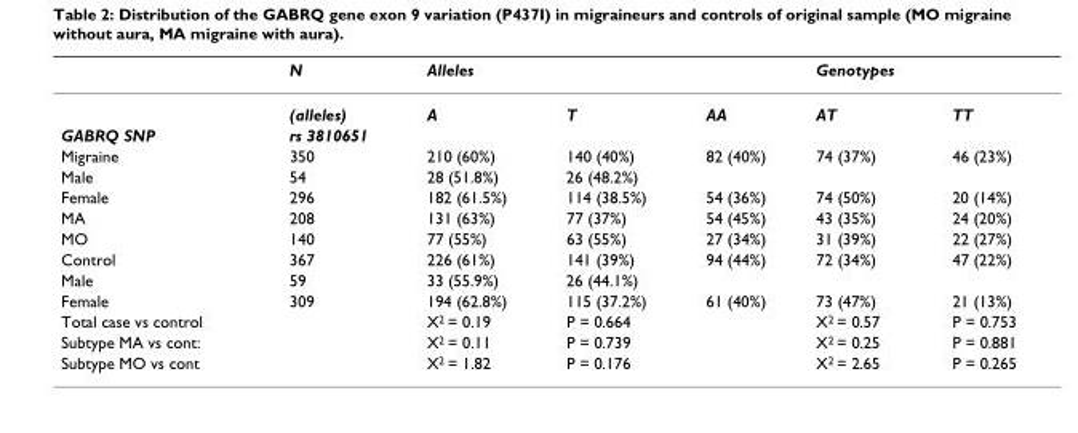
<table><thead><tr><td></td><td>N</td><td>Alleles</td><td></td><td></td><td>Genotypes</td><td></td></tr></thead><tbody><tr><td></td><td>(alleles)</td><td>A</td><td>T</td><td>AA</td><td>AT</td><td>TT</td></tr><tr><td>GABRQ SNP</td><td>rs 3810651</td><td></td><td></td><td></td><td></td><td></td></tr><tr><td>Migraine</td><td>350</td><td>210 (60%)</td><td>140 (40%)</td><td>82 (40%)</td><td>74 (37%)</td><td>46 (23%)</td></tr><tr><td>Male</td><td>54</td><td>28 (51.8%)</td><td>26 (48.2%)</td><td></td><td></td><td></td></tr><tr><td>Female</td><td>296</td><td>182 (61.5%)</td><td>114 (38.5%)</td><td>54 (36%)</td><td>74 (50%)</td><td>20 (14%)</td></tr><tr><td>MA</td><td>208</td><td>131 (63%)</td><td>77 (37%)</td><td>54 (45%)</td><td>43 (35%)</td><td>24 (20%)</td></tr><tr><td>MO</td><td>140</td><td>77 (55%)</td><td>63 (55%)</td><td>27 (34%)</td><td>31 (39%)</td><td>22 (27%)</td></tr><tr><td>Control</td><td>367</td><td>226 (61%)</td><td>141 (39%)</td><td>94 (44%)</td><td>72 (34%)</td><td>47 (22%)</td></tr><tr><td>Male</td><td>59</td><td>33 (55.9%)</td><td>26 (44.1%)</td><td></td><td></td><td></td></tr><tr><td>Female</td><td>309</td><td>194 (62.8%)</td><td>115 (37.2%)</td><td>61 (40%)</td><td>73 (47%)</td><td>21 (13%)</td></tr><tr><td>Total case vs control</td><td></td><td>X<sup>2</sup> = 0.19</td><td>P = 0.664</td><td></td><td>X<sup>2</sup> = 0.57</td><td>P = 0.753</td></tr><tr><td>Subtype MA vs cont:</td><td></td><td>X<sup>2</sup> = 0.11</td><td>P = 0.739</td><td></td><td>X<sup>2</sup> = 0.25</td><td>P = 0.881</td></tr><tr><td>Subtype MO vs cont</td><td></td><td>X<sup>2</sup> = 1.82</td><td>P = 0.176</td><td></td><td>X<sup>2</sup> = 2.65</td><td>P = 0.265</td></tr></tbody></table>